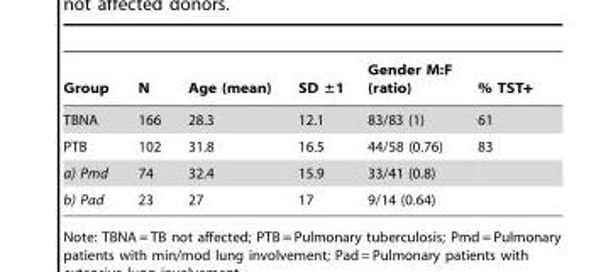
<table><thead><tr><td>Group</td><td>N</td><td>Age (mean)</td><td>SD ±1</td><td>Gender M:F (ratio)</td><td>% TST+</td></tr></thead><tbody><tr><td>TBNA</td><td>166</td><td>28.3</td><td>12.1</td><td>83/83 (1)</td><td>61</td></tr><tr><td>PTB</td><td>102</td><td>31.8</td><td>16.5</td><td>44/58 (0.76)</td><td>83</td></tr><tr><td>a) Pmd</td><td>74</td><td>32.4</td><td>15.9</td><td>33/41 (0.8)</td><td></td></tr><tr><td>b) Pad</td><td>23</td><td>27</td><td>17</td><td>9/14 (0.64)</td><td></td></tr></tbody></table>